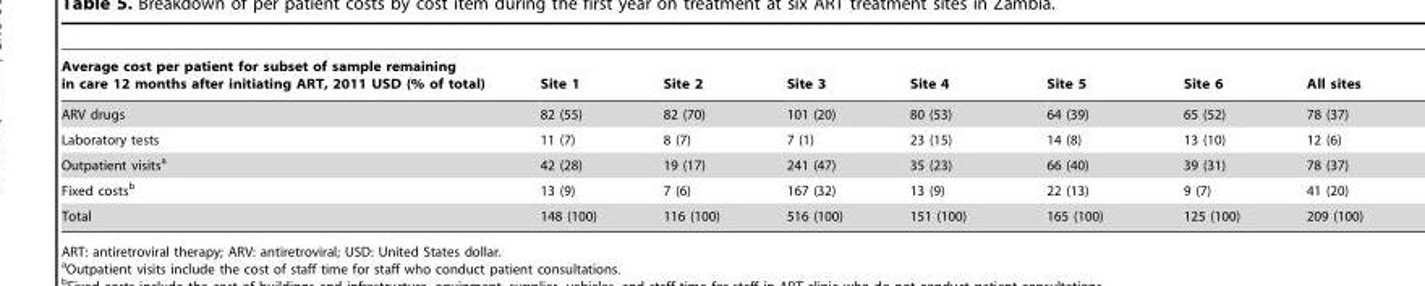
<table><thead><tr><td>Average cost per patient for subset of sample remaining in care 12 months after initiating ART, 2011 USD (% of total)</td><td>Site 1</td><td>Site 2</td><td>Site 3</td><td>Site 4</td><td>Site 5</td><td>Site 6</td><td>All sites</td></tr></thead><tbody><tr><td>ARV drugs</td><td>82 (55)</td><td>82 (70)</td><td>101 (20)</td><td>80 (53)</td><td>64 (39)</td><td>65 (52)</td><td>78 (37)</td></tr><tr><td>Laboratory tests</td><td>11 (7)</td><td>8 (7)</td><td>7 (1)</td><td>23 (15)</td><td>14 (8)</td><td>13 (10)</td><td>12 (6)</td></tr><tr><td>Outpatient visits<sup>a</sup></td><td>42 (28)</td><td>19 (17)</td><td>241 (47)</td><td>35 (23)</td><td>66 (40)</td><td>39 (31)</td><td>78 (37)</td></tr><tr><td>Fixed costs<sup>b</sup></td><td>13 (9)</td><td>7 (6)</td><td>167 (32)</td><td>13 (9)</td><td>22 (13)</td><td>9 (7)</td><td>41 (20)</td></tr><tr><td>Total</td><td>148 (100)</td><td>116 (100)</td><td>516 (100)</td><td>151 (100)</td><td>165 (100)</td><td>125 (100)</td><td>209 (100)</td></tr></tbody></table>